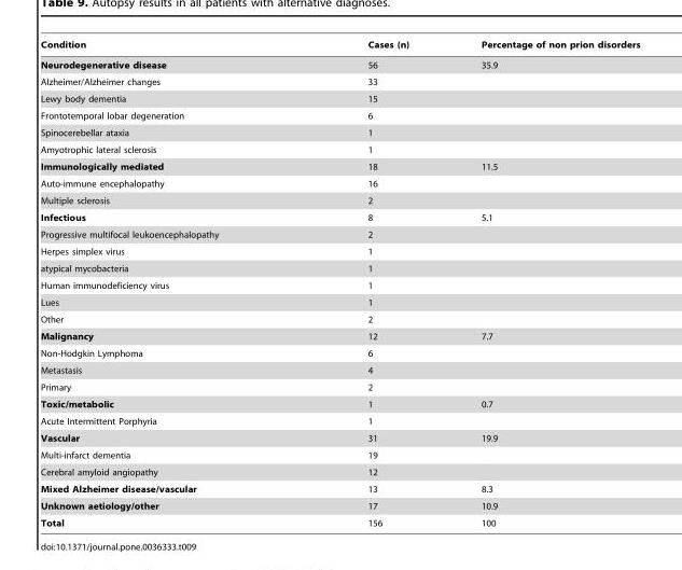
<table><thead><tr><td>Condition</td><td>Cases (n)</td><td>Percentage of non prion disorders</td></tr></thead><tbody><tr><td>Neurodegenerative disease</td><td>56</td><td>35.9</td></tr><tr><td>Alzheimer/Alzheimer changes</td><td>33</td><td></td></tr><tr><td>Lewy body dementia</td><td>15</td><td></td></tr><tr><td>Frontotemporal lobar degeneration</td><td>6</td><td></td></tr><tr><td>Spinocerebellar ataxia</td><td>1</td><td></td></tr><tr><td>Amyotrophic lateral sclerosis</td><td>1</td><td></td></tr><tr><td>Immunologically mediated</td><td>18</td><td>11.5</td></tr><tr><td>Auto-immune encephalopathy</td><td>16</td><td></td></tr><tr><td>Multiple sclerosis</td><td>2</td><td></td></tr><tr><td>Infectious</td><td>8</td><td>5.1</td></tr><tr><td>Progressive multifocal leukoencephalopathy</td><td>2</td><td></td></tr><tr><td>Herpes simplex virus</td><td>1</td><td></td></tr><tr><td>atypical mycobacteria</td><td>1</td><td></td></tr><tr><td>Human immunodeficiency virus</td><td>1</td><td></td></tr><tr><td>Lues</td><td>1</td><td></td></tr><tr><td>Other</td><td>2</td><td></td></tr><tr><td>Malignancy</td><td>12</td><td>7.7</td></tr><tr><td>Non-Hodgkin Lymphoma</td><td>6</td><td></td></tr><tr><td>Metastasis</td><td>4</td><td></td></tr><tr><td>Primary</td><td>2</td><td></td></tr><tr><td>Toxic/metabolic</td><td>1</td><td>0.7</td></tr><tr><td>Acute Intermittent Porphyria</td><td>1</td><td></td></tr><tr><td>Vascular</td><td>31</td><td>19.9</td></tr><tr><td>Multi-infarct dementia</td><td>19</td><td></td></tr><tr><td>Cerebral amyloid angiopathy</td><td>12</td><td></td></tr><tr><td>Mixed Alzheimer disease/vascular</td><td>13</td><td>8.3</td></tr><tr><td>Unknown aetiology/other</td><td>17</td><td>10.9</td></tr><tr><td>Total</td><td>156</td><td>100</td></tr></tbody></table>